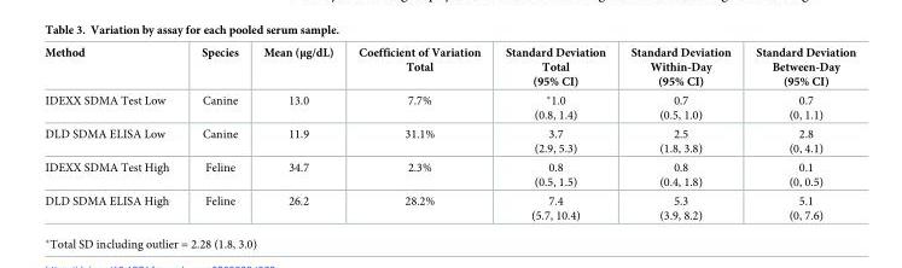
<table><thead><tr><td>Method</td><td>Species</td><td>Mean (μg/dL)</td><td>Coefficient of Variation Total</td><td>Standard Deviation Total (95% CI)</td><td>Standard Deviation Within-Day (95% CI)</td><td>Standard Deviation Between-Day (95% CI)</td></tr></thead><tbody><tr><td>IDEXX SDMA Test Low</td><td>Canine</td><td>13.0</td><td>7.7%</td><td>*1.0 (0.8, 1.4)</td><td>0.7 (0.5, 1.0)</td><td>0.7 (0, 1.1)</td></tr><tr><td>DLD SDMA ELISA Low</td><td>Canine</td><td>11.9</td><td>31.1%</td><td>3.7 (2.9, 5.3)</td><td>2.5 (1.8, 3.8)</td><td>2.8 (0, 4.1)</td></tr><tr><td>IDEXX SDMA Test High</td><td>Feline</td><td>34.7</td><td>2.3%</td><td>0.8 (0.5, 1.5)</td><td>0.8 (0.4, 1.8)</td><td>0.1 (0, 0.5)</td></tr><tr><td>DLD SDMA ELISA High</td><td>Feline</td><td>26.2</td><td>28.2%</td><td>7.4 (5.7, 10.4)</td><td>5.3 (3.9, 8.2)</td><td>5.1 (0, 7.6)</td></tr></tbody></table>